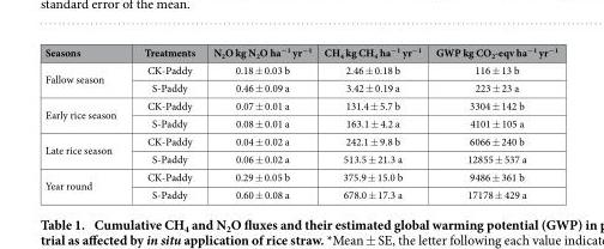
<table><thead><tr><td>Seasons</td><td>Treatments</td><td>N<sub>2</sub>O kg N<sub>2</sub>O ha<sup>−1</sup> yr<sup>−1</sup></td><td>CH<sub>4</sub> kg CH<sub>4</sub> ha<sup>−1</sup> yr<sup>−1</sup></td><td>GWP kg CO<sub>2</sub>-eqv ha<sup>−1</sup> yr<sup>−1</sup></td></tr></thead><tbody><tr><td rowspan="2">Fallow season</td><td>CK-Paddy</td><td>0.18 ± 0.03 b</td><td>2.46 ± 0.18 b</td><td>116 ± 13 b</td></tr><tr><td>S-Paddy</td><td>0.46 ± 0.09 a</td><td>3.42 ± 0.19 a</td><td>223 ± 23 a</td></tr><tr><td rowspan="2">Early rice season</td><td>CK-Paddy</td><td>0.07 ± 0.01 a</td><td>131.4 ± 5.7 b</td><td>3304 ± 142 b</td></tr><tr><td>S-Paddy</td><td>0.08 ± 0.01 a</td><td>163.1 ± 4.2 a</td><td>4101 ± 105 a</td></tr><tr><td rowspan="2">Late rice season</td><td>CK-Paddy</td><td>0.04 ± 0.02 a</td><td>242.1 ± 9.8 b</td><td>6066 ± 240 b</td></tr><tr><td>S-Paddy</td><td>0.06 ± 0.02 a</td><td>513.5 ± 21.3 a</td><td>12855 ± 537 a</td></tr><tr><td rowspan="2">Year round</td><td>CK-Paddy</td><td>0.29 ± 0.05 b</td><td>375.9 ± 15.0 b</td><td>9486 ± 361 b</td></tr><tr><td>S-Paddy</td><td>0.60 ± 0.08 a</td><td>678.0 ± 17.3 a</td><td>17178 ± 429 a</td></tr></tbody></table>